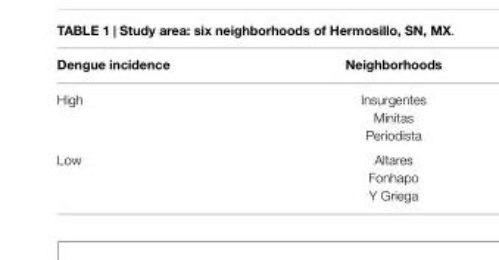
<table><thead><tr><td>Dengue incidence</td><td>Neighborhoods</td></tr></thead><tbody><tr><td rowspan="3">High</td><td>Insurgentes</td></tr><tr><td>Minitas</td></tr><tr><td>Periodista</td></tr><tr><td rowspan="3">Low</td><td>Altares</td></tr><tr><td>Fonhapo</td></tr><tr><td>Y Griega</td></tr></tbody></table>